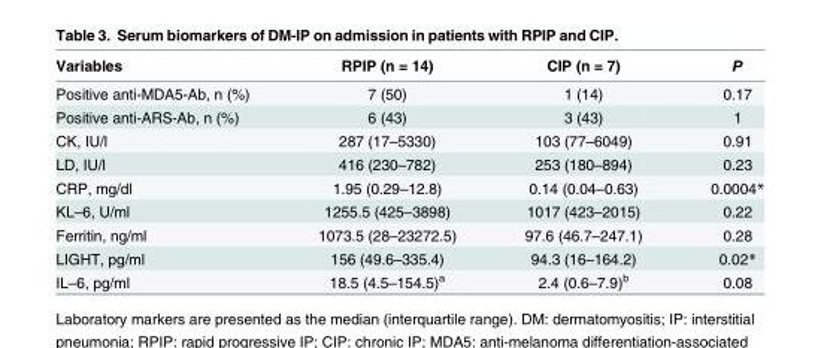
<table><thead><tr><td>Variables</td><td>RPIP (n = 14)</td><td>CIP (n = 7)</td><td>P</td></tr></thead><tbody><tr><td>Positive anti-MDA5-Ab, n (%)</td><td>7 (50)</td><td>1 (14)</td><td>0.17</td></tr><tr><td>Positive anti-ARS-Ab, n (%)</td><td>6 (43)</td><td>3 (43)</td><td>1</td></tr><tr><td>CK, IU/l</td><td>287 (17–5330)</td><td>103 (77–6049)</td><td>0.91</td></tr><tr><td>LD, IU/l</td><td>416 (230–782)</td><td>253 (180–894)</td><td>0.23</td></tr><tr><td>CRP, mg/dl</td><td>1.95 (0.29–12.8)</td><td>0.14 (0.04–0.63)</td><td>0.0004*</td></tr><tr><td>KL–6, U/ml</td><td>1255.5 (425–3898)</td><td>1017 (423–2015)</td><td>0.22</td></tr><tr><td>Ferritin, ng/ml</td><td>1073.5 (28–23272.5)</td><td>97.6 (46.7–247.1)</td><td>0.28</td></tr><tr><td>LIGHT, pg/ml</td><td>156 (49.6–335.4)</td><td>94.3 (16–164.2)</td><td>0.02*</td></tr><tr><td>IL–6, pg/ml</td><td>18.5 (4.5–154.5)<sup>a</sup></td><td>2.4 (0.6–7.9)<sup>b</sup></td><td>0.08</td></tr></tbody></table>